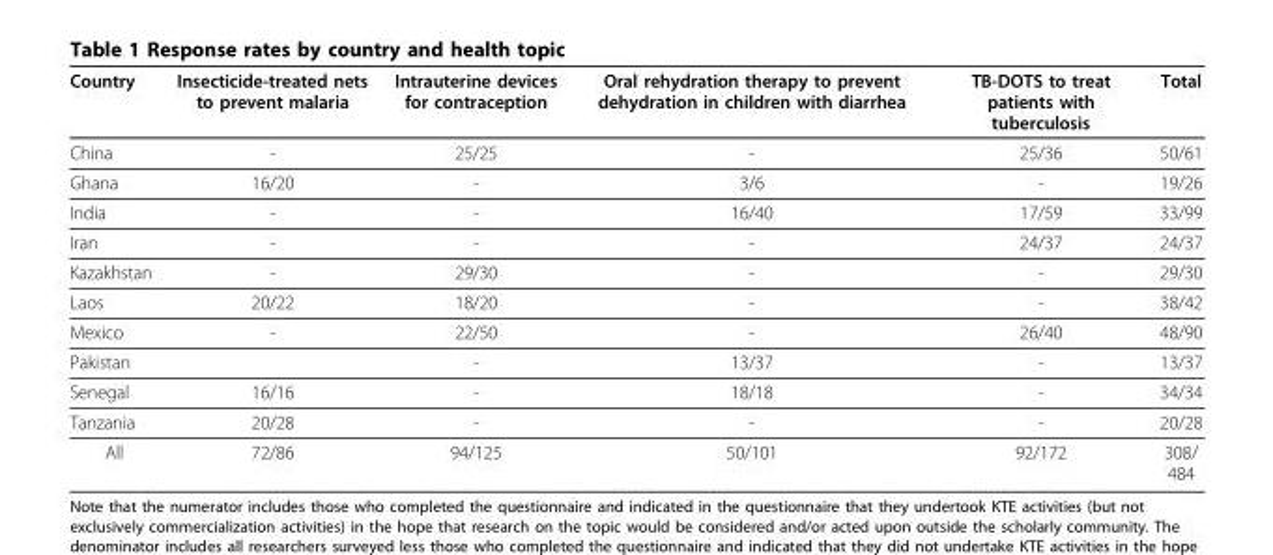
<table><thead><tr><td>Country</td><td>Insecticide-treated nets to prevent malaria</td><td>Intrauterine devices for contraception</td><td>Oral rehydration therapy to prevent dehydration in children with diarrhea</td><td>TB-DOTS to treat patients with tuberculosis</td><td>Total</td></tr></thead><tbody><tr><td>China</td><td>-</td><td>25/25</td><td>-</td><td>25/36</td><td>50/61</td></tr><tr><td>Ghana</td><td>16/20</td><td>-</td><td>3/6</td><td>-</td><td>19/26</td></tr><tr><td>India</td><td>-</td><td>-</td><td>16/40</td><td>17/59</td><td>33/99</td></tr><tr><td>Iran</td><td>-</td><td>-</td><td>-</td><td>24/37</td><td>24/37</td></tr><tr><td>Kazakhstan</td><td>-</td><td>29/30</td><td>-</td><td>-</td><td>29/30</td></tr><tr><td>Laos</td><td>20/22</td><td>18/20</td><td>-</td><td>-</td><td>38/42</td></tr><tr><td>Mexico</td><td>-</td><td>22/50</td><td>-</td><td>26/40</td><td>48/90</td></tr><tr><td>Pakistan</td><td></td><td>-</td><td>13/37</td><td>-</td><td>13/37</td></tr><tr><td>Senegal</td><td>16/16</td><td>-</td><td>18/18</td><td>-</td><td>34/34</td></tr><tr><td>Tanzania</td><td>20/28</td><td>-</td><td>-</td><td>-</td><td>20/28</td></tr><tr><td>All</td><td>72/86</td><td>94/125</td><td>50/101</td><td>92/172</td><td>308/ 484</td></tr></tbody></table>